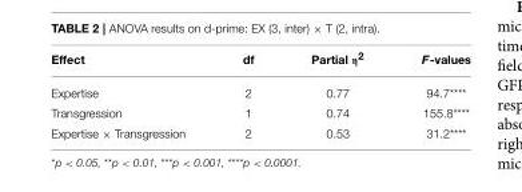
<table><thead><tr><td>Effect</td><td>df</td><td>Partial η<sup>2</sup></td><td>F-values</td></tr></thead><tbody><tr><td>Expertise</td><td>2</td><td>0.77</td><td>94.7****</td></tr><tr><td>Transgression</td><td>1</td><td>0.74</td><td>155.8****</td></tr><tr><td>Expertise × Transgression</td><td>2</td><td>0.53</td><td>31.2****</td></tr></tbody></table>